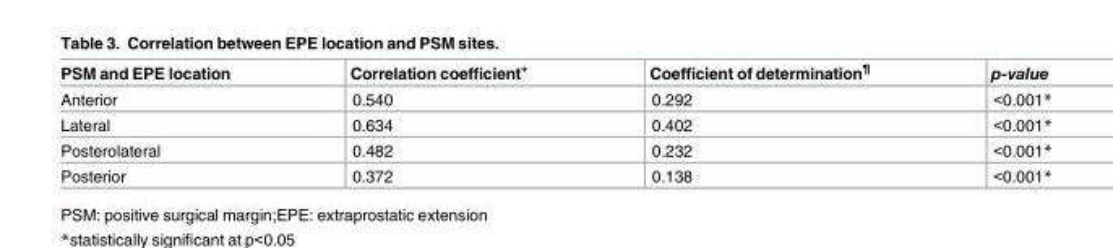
<table><thead><tr><td>PSM and EPE location</td><td>Correlation coefficient<sup>+</sup></td><td>Coefficient of determination<sup>¶</sup></td><td>p-value</td></tr></thead><tbody><tr><td>Anterior</td><td>0.540</td><td>0.292</td><td>&lt;0.001*</td></tr><tr><td>Lateral</td><td>0.634</td><td>0.402</td><td>&lt;0.001*</td></tr><tr><td>Posterolateral</td><td>0.482</td><td>0.232</td><td>&lt;0.001*</td></tr><tr><td>Posterior</td><td>0.372</td><td>0.138</td><td>&lt;0.001*</td></tr></tbody></table>